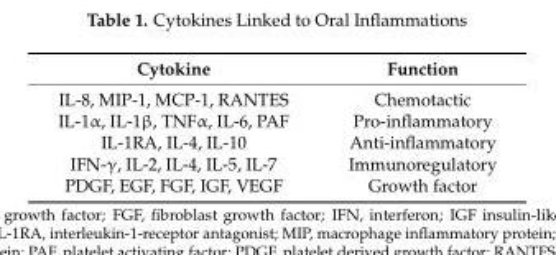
<table><thead><tr><td>Cytokine</td><td>Function</td></tr></thead><tbody><tr><td>IL-8, MIP-1, MCP-1, RANTES</td><td>Chemotactic</td></tr><tr><td>IL-1α, IL-1β, TNFα, IL-6, PAF</td><td>Pro-inflammatory</td></tr><tr><td>IL-1RA, IL-4, IL-10</td><td>Anti-inflammatory</td></tr><tr><td>IFN-γ, IL-2, IL-4, IL-5, IL-7</td><td>Immunoregulatory</td></tr><tr><td>PDGF, EGF, FGF, IGF, VEGF</td><td>Growth factor</td></tr></tbody></table>